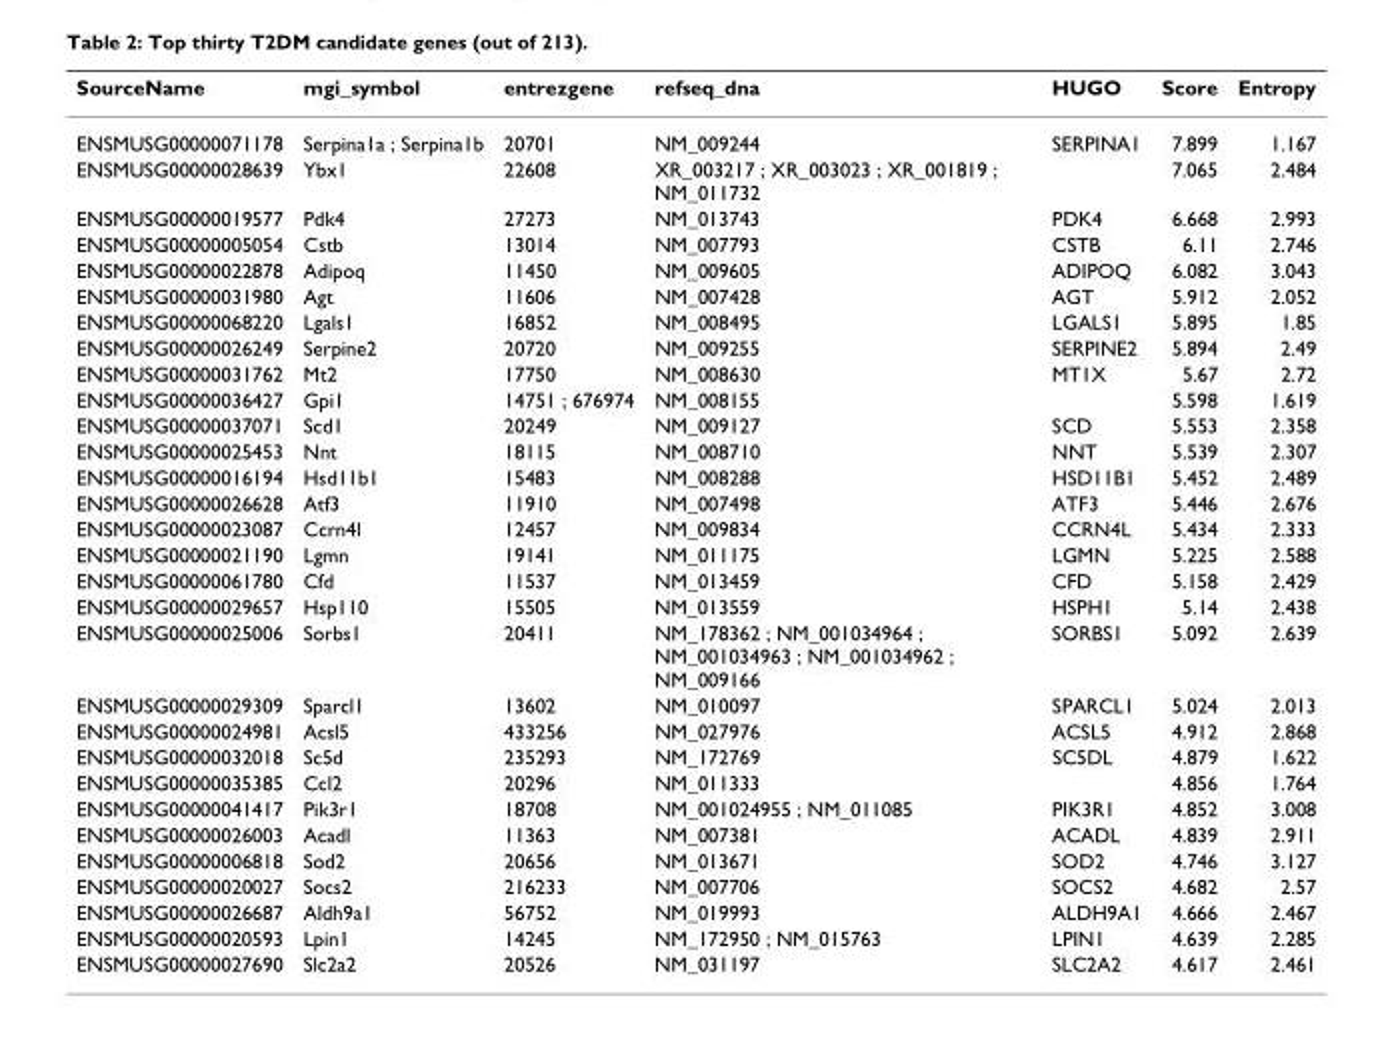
<table><thead><tr><td>SourceName</td><td>mgi_symbol</td><td>entrezgene</td><td>refseq_dna</td><td>HUGO</td><td>Score</td><td>Entropy</td></tr></thead><tbody><tr><td>ENSMUSG00000071178</td><td>Serpina1a ; Serpina1b</td><td>20701</td><td>NM_009244</td><td>SERPINA1</td><td>7.899</td><td>1.167</td></tr><tr><td>ENSMUSG00000028639</td><td>Ybx1</td><td>22608</td><td>XR_003217 ; XR_003023 ; XR_001819 ; NM_011732</td><td></td><td>7.065</td><td>2.484</td></tr><tr><td>ENSMUSG00000019577</td><td>Pdk4</td><td>27273</td><td>NM_013743</td><td>PDK4</td><td>6.668</td><td>2.993</td></tr><tr><td>ENSMUSG00000005054</td><td>Cstb</td><td>13014</td><td>NM_007793</td><td>CSTB</td><td>6.11</td><td>2.746</td></tr><tr><td>ENSMUSG00000022878</td><td>Adipoq</td><td>11450</td><td>NM_009605</td><td>ADIPOQ</td><td>6.082</td><td>3.043</td></tr><tr><td>ENSMUSG00000031980</td><td>Agt</td><td>11606</td><td>NM_007428</td><td>AGT</td><td>5.912</td><td>2.052</td></tr><tr><td>ENSMUSG00000068220</td><td>Lgals1</td><td>16852</td><td>NM_008495</td><td>LGALS1</td><td>5.895</td><td>1.85</td></tr><tr><td>ENSMUSG00000026249</td><td>Serpine2</td><td>20720</td><td>NM_009255</td><td>SERPINE2</td><td>5.894</td><td>2.49</td></tr><tr><td>ENSMUSG00000031762</td><td>Mt2</td><td>17750</td><td>NM_008630</td><td>MT1X</td><td>5.67</td><td>2.72</td></tr><tr><td>ENSMUSG00000036427</td><td>Gpi1</td><td>14751 ; 676974</td><td>NM_008155</td><td></td><td>5.598</td><td>1.619</td></tr><tr><td>ENSMUSG00000037071</td><td>Scd1</td><td>20249</td><td>NM_009127</td><td>SCD</td><td>5.553</td><td>2.358</td></tr><tr><td>ENSMUSG00000025453</td><td>Nnt</td><td>18115</td><td>NM_008710</td><td>NNT</td><td>5.539</td><td>2.307</td></tr><tr><td>ENSMUSG00000016194</td><td>Hsd11b1</td><td>15483</td><td>NM_008288</td><td>HSD11B1</td><td>5.452</td><td>2.489</td></tr><tr><td>ENSMUSG00000026628</td><td>Atf3</td><td>11910</td><td>NM_007498</td><td>ATF3</td><td>5.446</td><td>2.676</td></tr><tr><td>ENSMUSG00000023087</td><td>Ccrn4l</td><td>12457</td><td>NM_009834</td><td>CCRN4L</td><td>5.434</td><td>2.333</td></tr><tr><td>ENSMUSG00000021190</td><td>Lgmn</td><td>19141</td><td>NM_011175</td><td>LGMN</td><td>5.225</td><td>2.588</td></tr><tr><td>ENSMUSG00000061780</td><td>Cfd</td><td>11537</td><td>NM_013459</td><td>CFD</td><td>5.158</td><td>2.429</td></tr><tr><td>ENSMUSG00000029657</td><td>Hsp110</td><td>15505</td><td>NM_013559</td><td>HSPH1</td><td>5.14</td><td>2.438</td></tr><tr><td>ENSMUSG00000025006</td><td>Sorbs1</td><td>20411</td><td>NM_178362 ; NM_001034964 ; NM_001034963 ; NM_001034962 ; NM_009166</td><td>SORBS1</td><td>5.092</td><td>2.639</td></tr><tr><td>ENSMUSG00000029309</td><td>Sparcl1</td><td>13602</td><td>NM_010097</td><td>SPARCL1</td><td>5.024</td><td>2.013</td></tr><tr><td>ENSMUSG00000024981</td><td>Acsl5</td><td>433256</td><td>NM_027976</td><td>ACSL5</td><td>4.912</td><td>2.868</td></tr><tr><td>ENSMUSG00000032018</td><td>Sc5d</td><td>235293</td><td>NM_172769</td><td>SC5DL</td><td>4.879</td><td>1.622</td></tr><tr><td>ENSMUSG00000035385</td><td>Ccl2</td><td>20296</td><td>NM_011333</td><td></td><td>4.856</td><td>1.764</td></tr><tr><td>ENSMUSG00000041417</td><td>Pik3r1</td><td>18708</td><td>NM_001024955 ; NM_011085</td><td>PIK3R1</td><td>4.852</td><td>3.008</td></tr><tr><td>ENSMUSG00000026003</td><td>Acadl</td><td>11363</td><td>NM_007381</td><td>ACADL</td><td>4.839</td><td>2.911</td></tr><tr><td>ENSMUSG00000006818</td><td>Sod2</td><td>20656</td><td>NM_013671</td><td>SOD2</td><td>4.746</td><td>3.127</td></tr><tr><td>ENSMUSG00000020027</td><td>Socs2</td><td>216233</td><td>NM_007706</td><td>SOCS2</td><td>4.682</td><td>2.57</td></tr><tr><td>ENSMUSG00000026687</td><td>Aldh9a1</td><td>56752</td><td>NM_019993</td><td>ALDH9A1</td><td>4.666</td><td>2.467</td></tr><tr><td>ENSMUSG00000020593</td><td>Lpin1</td><td>14245</td><td>NM_172950 ; NM_015763</td><td>LPIN1</td><td>4.639</td><td>2.285</td></tr><tr><td>ENSMUSG00000027690</td><td>Slc2a2</td><td>20526</td><td>NM_031197</td><td>SLC2A2</td><td>4.617</td><td>2.461</td></tr></tbody></table>